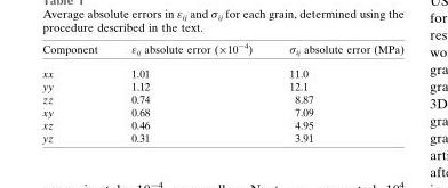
<table><thead><tr><td>Component</td><td>∊<sub>ij</sub> absolute error (×10<sup>−4</sup>)</td><td>σ<sub>ij</sub> absolute error (MPa)</td></tr></thead><tbody><tr><td>xx</td><td>1.01</td><td>11.0</td></tr><tr><td>yy</td><td>1.12</td><td>12.1</td></tr><tr><td>zz</td><td>0.74</td><td>8.87</td></tr><tr><td>xy</td><td>0.68</td><td>7.09</td></tr><tr><td>xz</td><td>0.46</td><td>4.95</td></tr><tr><td>yz</td><td>0.31</td><td>3.91</td></tr></tbody></table>